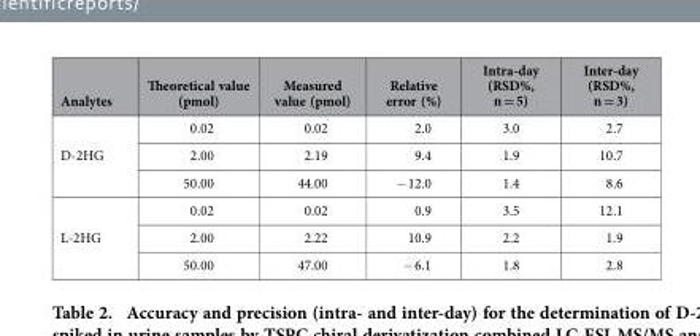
<table><thead><tr><td>Analytes</td><td>Theoretical value (pmol)</td><td>Measured value (pmol)</td><td>Relative error (%)</td><td>Intra-day (RSD%, n = 5)</td><td>Inter-day (RSD%, n = 3)</td></tr></thead><tbody><tr><td rowspan="3">D-2HG</td><td>0.02</td><td>0.02</td><td>2.0</td><td>3.0</td><td>2.7</td></tr><tr><td>2.00</td><td>2.19</td><td>9.4</td><td>1.9</td><td>10.7</td></tr><tr><td>50.00</td><td>44.00</td><td>− 12.0</td><td>1.4</td><td>8.6</td></tr><tr><td rowspan="3">L-2HG</td><td>0.02</td><td>0.02</td><td>0.9</td><td>3.5</td><td>12.1</td></tr><tr><td>2.00</td><td>2.22</td><td>10.9</td><td>2.2</td><td>1.9</td></tr><tr><td>50.00</td><td>47.00</td><td>− 6.1</td><td>1.8</td><td>2.8</td></tr></tbody></table>